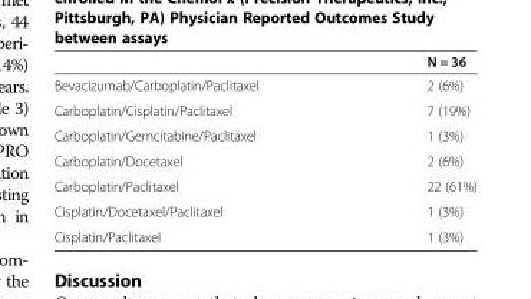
<table><thead><tr><td></td><td>N = 36</td></tr></thead><tbody><tr><td>Bevacizumab/Carboplatin/Paclitaxel</td><td>2 (6%)</td></tr><tr><td>Carboplatin/Cisplatin/Paclitaxel</td><td>7 (19%)</td></tr><tr><td>Carboplatin/Gemcitabine/Paclitaxel</td><td>1 (3%)</td></tr><tr><td>Carboplatin/Docetaxel</td><td>2 (6%)</td></tr><tr><td>Carboplatin/Paclitaxel</td><td>22 (61%)</td></tr><tr><td>Cisplatin/Docetaxel/Paclitaxel</td><td>1 (3%)</td></tr><tr><td>Cisplatin/Paclitaxel</td><td>1 (3%)</td></tr></tbody></table>